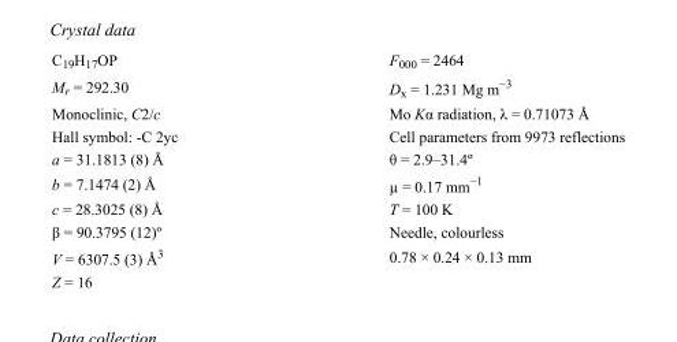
<table><tbody><tr><td>C<sub>19</sub>H<sub>17</sub>OP</td><td>F000 = 2464</td></tr><tr><td>M<sub>r</sub> = 292.30</td><td>D<sub>x</sub> = 1.231 Mg m<sup>−3</sup></td></tr><tr><td>Monoclinic, C2/c</td><td>Mo Kα radiation, λ = 0.71073 Å</td></tr><tr><td>Hall symbol: -C 2yc</td><td>Cell parameters from 9973 reflections</td></tr><tr><td>a = 31.1813 (8) Å</td><td>θ = 2.9–31.4º</td></tr><tr><td>b = 7.1474 (2) Å</td><td>µ = 0.17 mm<sup>−1</sup></td></tr><tr><td>c = 28.3025 (8) Å</td><td>T = 100 K</td></tr><tr><td>β = 90.3795 (12)º</td><td>Needle, colourless</td></tr><tr><td>V = 6307.5 (3) Å<sup>3</sup></td><td>0.78 × 0.24 × 0.13 mm</td></tr><tr><td>Z = 16</td><td></td></tr></tbody></table>